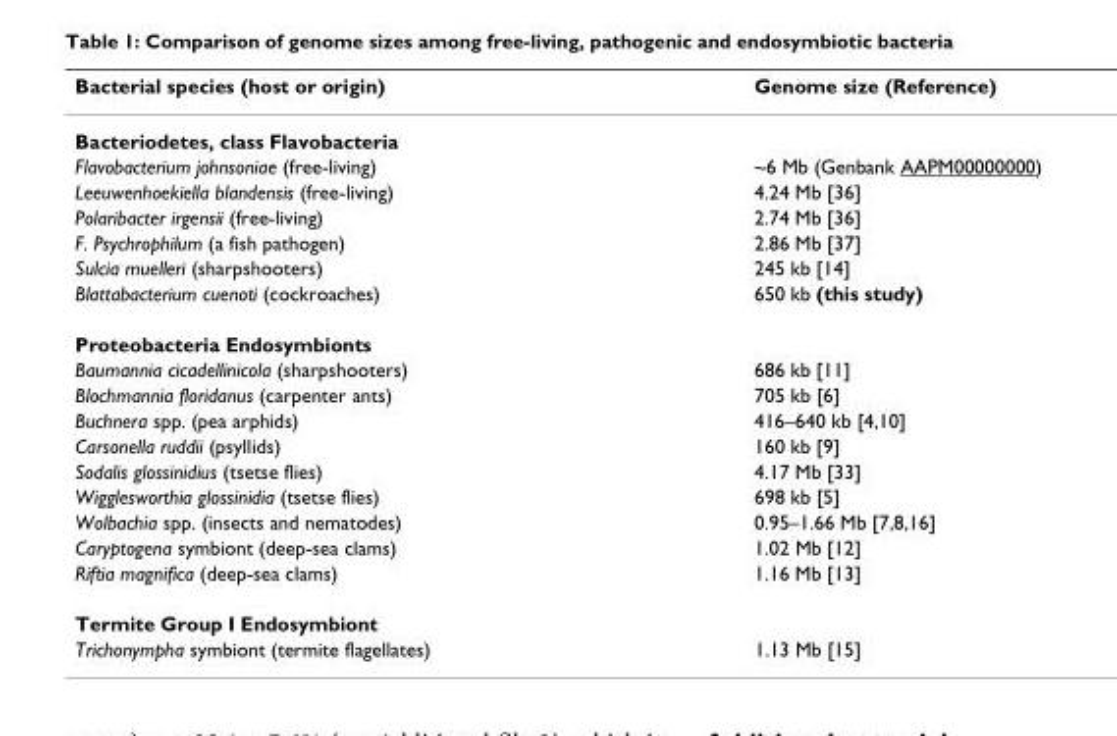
<table><thead><tr><td>Bacterial species (host or origin)</td><td>Genome size (Reference)</td></tr></thead><tbody><tr><td colspan="2">Bacteriodetes, class Flavobacteria</td></tr><tr><td>Flavobacterium johnsoniae (free-living)</td><td>~6 Mb (Genbank AAPM00000000)</td></tr><tr><td>Leeuwenhoekiella blandensis (free-living)</td><td>4.24 Mb [36]</td></tr><tr><td>Polaribacter irgensii (free-living)</td><td>2.74 Mb [36]</td></tr><tr><td>F. Psychrophilum (a fish pathogen)</td><td>2.86 Mb [37]</td></tr><tr><td>Sulcia muelleri (sharpshooters)</td><td>245 kb [14]</td></tr><tr><td>Blattabacterium cuenoti (cockroaches)</td><td>650 kb (this study)</td></tr><tr><td colspan="2">Proteobacteria Endosymbionts</td></tr><tr><td>Baumannia cicadellinicola (sharpshooters)</td><td>686 kb [11]</td></tr><tr><td>Blochmannia floridanus (carpenter ants)</td><td>705 kb [6]</td></tr><tr><td>Buchnera spp. (pea arphids)</td><td>416–640 kb [4,10]</td></tr><tr><td>Carsonella ruddii (psyllids)</td><td>160 kb [9]</td></tr><tr><td>Sodalis glossinidius (tsetse flies)</td><td>4.17 Mb [33]</td></tr><tr><td>Wigglesworthia glossinidia (tsetse flies)</td><td>698 kb [5]</td></tr><tr><td>Wolbachia spp. (insects and nematodes)</td><td>0.95–1.66 Mb [7,8,16]</td></tr><tr><td>Caryptogena symbiont (deep-sea clams)</td><td>1.02 Mb [12]</td></tr><tr><td>Riftia magnifica (deep-sea clams)</td><td>1.16 Mb [13]</td></tr><tr><td colspan="2">Termite Group I Endosymbiont</td></tr><tr><td>Trichonympha symbiont (termite flagellates)</td><td>1.13 Mb [15]</td></tr></tbody></table>